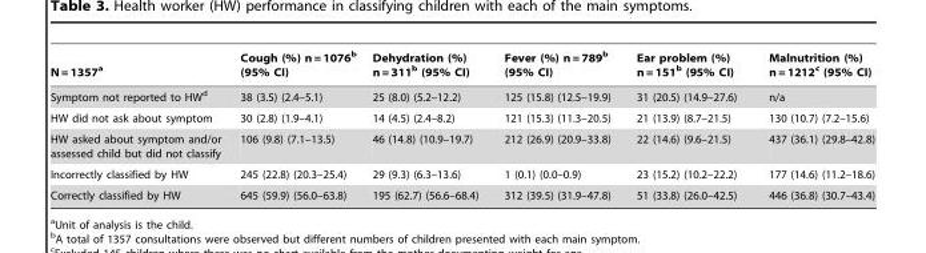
<table><thead><tr><td>N = 1357<sup>a</sup></td><td>Cough (%) n = 1076<sup>b</sup> (95% CI)</td><td>Dehydration (%) n = 311<sup>b</sup> (95% CI)</td><td>Fever (%) n = 789<sup>b</sup> (95% CI)</td><td>Ear problem (%) n = 151<sup>b</sup> (95% CI)</td><td>Malnutrition (%) n = 1212<sup>c</sup> (95% CI)</td></tr></thead><tbody><tr><td>Symptom not reported to HW<sup>d</sup></td><td>38 (3.5) (2.4–5.1)</td><td>25 (8.0) (5.2–12.2)</td><td>125 (15.8) (12.5–19.9)</td><td>31 (20.5) (14.9–27.6)</td><td>n/a</td></tr><tr><td>HW did not ask about symptom</td><td>30 (2.8) (1.9–4.1)</td><td>14 (4.5) (2.4–8.2)</td><td>121 (15.3) (11.3–20.5)</td><td>21 (13.9) (8.7–21.5)</td><td>130 (10.7) (7.2–15.6)</td></tr><tr><td>HW asked about symptom and/or assessed child but did not classify</td><td>106 (9.8) (7.1–13.5)</td><td>46 (14.8) (10.9–19.7)</td><td>212 (26.9) (20.9–33.8)</td><td>22 (14.6) (9.6–21.5)</td><td>437 (36.1) (29.8–42.8)</td></tr><tr><td>Incorrectly classified by HW</td><td>245 (22.8) (20.3–25.4)</td><td>29 (9.3) (6.3–13.6)</td><td>1 (0.1) (0.0–0.9)</td><td>23 (15.2) (10.2–22.2)</td><td>177 (14.6) (11.2–18.6)</td></tr><tr><td>Correctly classified by HW</td><td>645 (59.9) (56.0–63.8)</td><td>195 (62.7) (56.6–68.4)</td><td>312 (39.5) (31.9–47.8)</td><td>51 (33.8) (26.0–42.5)</td><td>446 (36.8) (30.7–43.4)</td></tr></tbody></table>